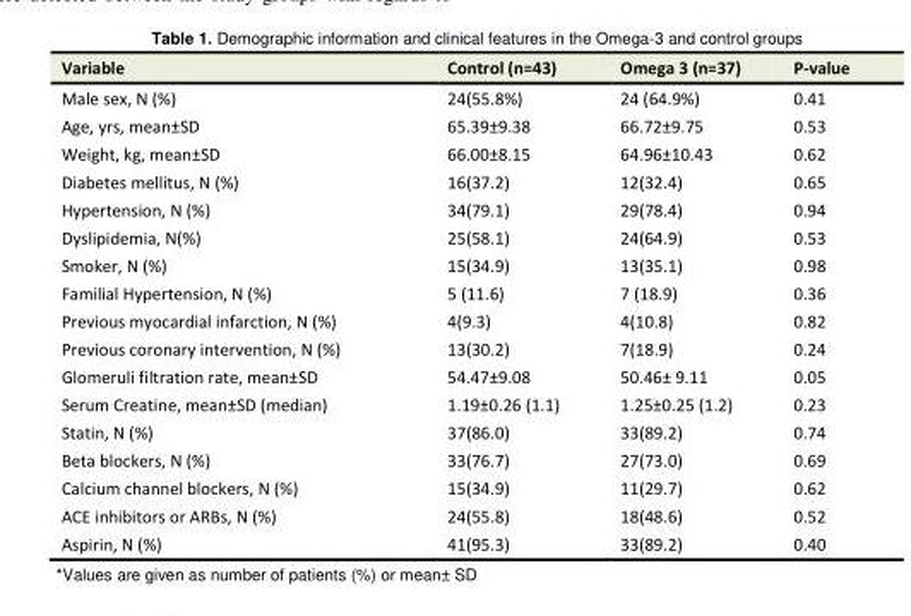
<table><tbody><tr><td>Variable</td><td>Control (n=43)</td><td>Omega 3 (n=37)</td><td>P-value</td></tr><tr><td>Male sex, N (%)</td><td>24(55.8%)</td><td>24 (64.9%)</td><td>0.41</td></tr><tr><td>Age, yrs, mean±SD</td><td>65.39±9.38</td><td>66.72±9.75</td><td>0.53</td></tr><tr><td>Weight, kg, mean±SD</td><td>66.00±8.15</td><td>64.96±10.43</td><td>0.62</td></tr><tr><td>Diabetes mellitus, N (%)</td><td>16(37.2)</td><td>12(32.4)</td><td>0.65</td></tr><tr><td>Hypertension, N (%)</td><td>34(79.1)</td><td>29(78.4)</td><td>0.94</td></tr><tr><td>Dyslipidemia, N(%)</td><td>25(58.1)</td><td>24(64.9)</td><td>0.53</td></tr><tr><td>Smoker, N (%)</td><td>15(34.9)</td><td>13(35.1)</td><td>0.98</td></tr><tr><td>Familial Hypertension, N (%)</td><td>5 (11.6)</td><td>7 (18.9)</td><td>0.36</td></tr><tr><td>Previous myocardial infarction, N (%)</td><td>4(9.3)</td><td>4(10.8)</td><td>0.82</td></tr><tr><td>Previous coronary intervention, N (%)</td><td>13(30.2)</td><td>7(18.9)</td><td>0.24</td></tr><tr><td>Glomeruli filtration rate, mean±SD</td><td>54.47±9.08</td><td>50.46± 9.11</td><td>0.05</td></tr><tr><td>Serum Creatine, mean±SD (median)</td><td>1.19±0.26 (1.1)</td><td>1.25±0.25 (1.2)</td><td>0.23</td></tr><tr><td>Statin, N (%)</td><td>37(86.0)</td><td>33(89.2)</td><td>0.74</td></tr><tr><td>Beta blockers, N (%)</td><td>33(76.7)</td><td>27(73.0)</td><td>0.69</td></tr><tr><td>Calcium channel blockers, N (%)</td><td>15(34.9)</td><td>11(29.7)</td><td>0.62</td></tr><tr><td>ACE inhibitors or ARBs, N (%)</td><td>24(55.8)</td><td>18(48.6)</td><td>0.52</td></tr><tr><td>Aspirin, N (%)</td><td>41(95.3)</td><td>33(89.2)</td><td>0.40</td></tr></tbody></table>